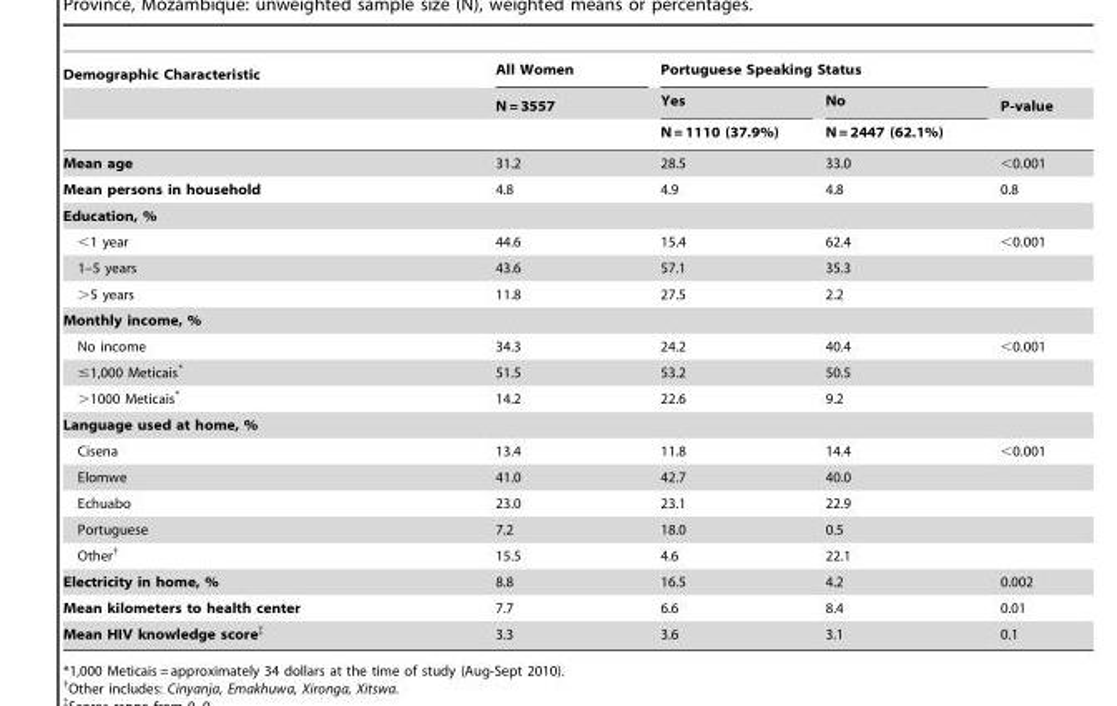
<table><thead><tr><td rowspan="3">Demographic Characteristic</td><td rowspan="3">All Women N = 3557</td><td colspan="2">Portuguese Speaking Status</td><td rowspan="3">P-value</td></tr><tr><td rowspan="2">Yes N = 1110 (37.9%)</td><td rowspan="2">No N = 2447 (62.1%)</td></tr><tr></tr></thead><tbody><tr><td>Mean age</td><td>31.2</td><td>28.5</td><td>33.0</td><td>&lt;0.001</td></tr><tr><td>Mean persons in household</td><td>4.8</td><td>4.9</td><td>4.8</td><td>0.8</td></tr><tr><td colspan="5">Education, %</td></tr><tr><td>&lt;1 year</td><td>44.6</td><td>15.4</td><td>62.4</td><td>&lt;0.001</td></tr><tr><td>1–5 years</td><td>43.6</td><td>57.1</td><td>35.3</td><td></td></tr><tr><td>&gt;5 years</td><td>11.8</td><td>27.5</td><td>2.2</td><td></td></tr><tr><td colspan="5">Monthly income, %</td></tr><tr><td>No income</td><td>34.3</td><td>24.2</td><td>40.4</td><td>&lt;0.001</td></tr><tr><td>≤1,000 Meticais*</td><td>51.5</td><td>53.2</td><td>50.5</td><td></td></tr><tr><td>&gt;1000 Meticais*</td><td>14.2</td><td>22.6</td><td>9.2</td><td></td></tr><tr><td colspan="5">Language used at home, %</td></tr><tr><td>Cisena</td><td>13.4</td><td>11.8</td><td>14.4</td><td>&lt;0.001</td></tr><tr><td>Elomwe</td><td>41.0</td><td>42.7</td><td>40.0</td><td></td></tr><tr><td>Echuabo</td><td>23.0</td><td>23.1</td><td>22.9</td><td></td></tr><tr><td>Portuguese</td><td>7.2</td><td>18.0</td><td>0.5</td><td></td></tr><tr><td>Other†</td><td>15.5</td><td>4.6</td><td>22.1</td><td></td></tr><tr><td>Electricity in home, %</td><td>8.8</td><td>16.5</td><td>4.2</td><td>0.002</td></tr><tr><td>Mean kilometers to health center</td><td>7.7</td><td>6.6</td><td>8.4</td><td>0.01</td></tr><tr><td>Mean HIV knowledge score‡</td><td>3.3</td><td>3.6</td><td>3.1</td><td>0.1</td></tr></tbody></table>